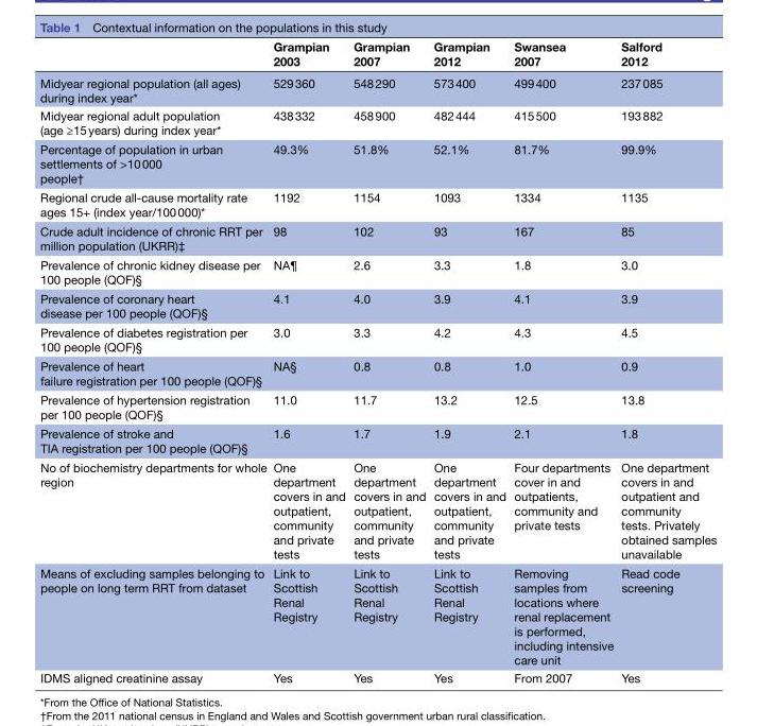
<table><thead><tr><td></td><td>Grampian 2003</td><td>Grampian 2007</td><td>Grampian 2012</td><td>Swansea 2007</td><td>Salford 2012</td></tr></thead><tbody><tr><td>Midyear regional population (all ages) during index year*</td><td>529 360</td><td>548 290</td><td>573 400</td><td>499 400</td><td>237 085</td></tr><tr><td>Midyear regional adult population (age ≥15 years) during index year*</td><td>438 332</td><td>458 900</td><td>482 444</td><td>415 500</td><td>193 882</td></tr><tr><td>Percentage of population in urban settlements of &gt;10 000 people†</td><td>49.3%</td><td>51.8%</td><td>52.1%</td><td>81.7%</td><td>99.9%</td></tr><tr><td>Regional crude all-cause mortality rate ages 15+ (index year/100 000)*</td><td>1192</td><td>1154</td><td>1093</td><td>1334</td><td>1135</td></tr><tr><td>Crude adult incidence of chronic RRT per million population (UKRR)‡</td><td>98</td><td>102</td><td>93</td><td>167</td><td>85</td></tr><tr><td>Prevalence of chronic kidney disease per 100 people (QOF)§</td><td>NA¶</td><td>2.6</td><td>3.3</td><td>1.8</td><td>3.0</td></tr><tr><td>Prevalence of coronary heart disease per 100 people (QOF)§</td><td>4.1</td><td>4.0</td><td>3.9</td><td>4.1</td><td>3.9</td></tr><tr><td>Prevalence of diabetes registration per 100 people (QOF)§</td><td>3.0</td><td>3.3</td><td>4.2</td><td>4.3</td><td>4.5</td></tr><tr><td>Prevalence of heart failure registration per 100 people (QOF)§</td><td>NA§</td><td>0.8</td><td>0.8</td><td>1.0</td><td>0.9</td></tr><tr><td>Prevalence of hypertension registration per 100 people (QOF)§</td><td>11.0</td><td>11.7</td><td>13.2</td><td>12.5</td><td>13.8</td></tr><tr><td>Prevalence of stroke and TIA registration per 100 people (QOF)§</td><td>1.6</td><td>1.7</td><td>1.9</td><td>2.1</td><td>1.8</td></tr><tr><td>No of biochemistry departments for whole region</td><td>One department covers in and outpatient, community and private tests</td><td>One department covers in and outpatient, community and private tests</td><td>One department covers in and outpatient, community and private tests</td><td>Four departments cover in and outpatients, community and private tests</td><td>One department covers in and outpatient and community tests. Privately obtained samples unavailable</td></tr><tr><td>Means of excluding samples belonging to people on long term RRT from dataset</td><td>Link to Scottish Renal Registry</td><td>Link to Scottish Renal Registry</td><td>Link to Scottish Renal Registry</td><td>Removing samples from locations where renal replacement is performed, including intensive care unit</td><td>Read code screening</td></tr><tr><td>IDMS aligned creatinine assay</td><td>Yes</td><td>Yes</td><td>Yes</td><td>From 2007</td><td>Yes</td></tr></tbody></table>